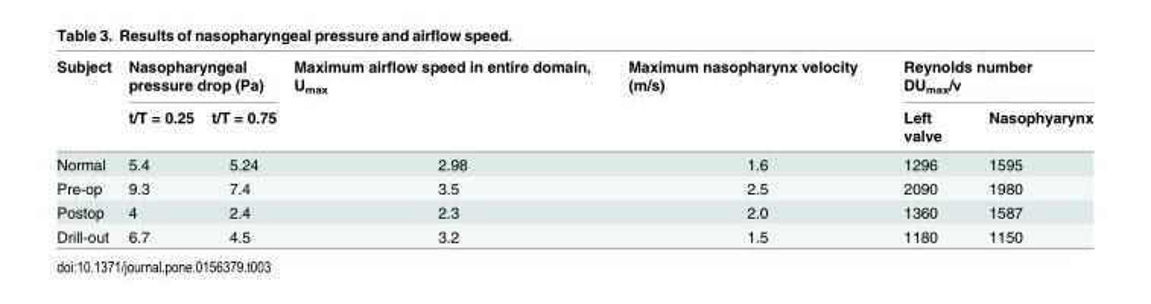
<table><thead><tr><td rowspan="2">Subject</td><td colspan="2">Nasopharyngeal pressure drop (Pa)</td><td rowspan="2">Maximum airflow speed in entire domain, U<sub>max</sub></td><td rowspan="2">Maximum nasopharynx velocity (m/s)</td><td colspan="2">Reynolds number DU<sub>max</sub>/ν</td></tr><tr><td>t/T = 0.25</td><td>t/T = 0.75</td><td>Left valve</td><td>Nasophyarynx</td></tr></thead><tbody><tr><td>Normal</td><td>5.4</td><td>5.24</td><td>2.98</td><td>1.6</td><td>1296</td><td>1595</td></tr><tr><td>Pre-op</td><td>9.3</td><td>7.4</td><td>3.5</td><td>2.5</td><td>2090</td><td>1980</td></tr><tr><td>Postop</td><td>4</td><td>2.4</td><td>2.3</td><td>2.0</td><td>1360</td><td>1587</td></tr><tr><td>Drill-out</td><td>6.7</td><td>4.5</td><td>3.2</td><td>1.5</td><td>1180</td><td>1150</td></tr></tbody></table>